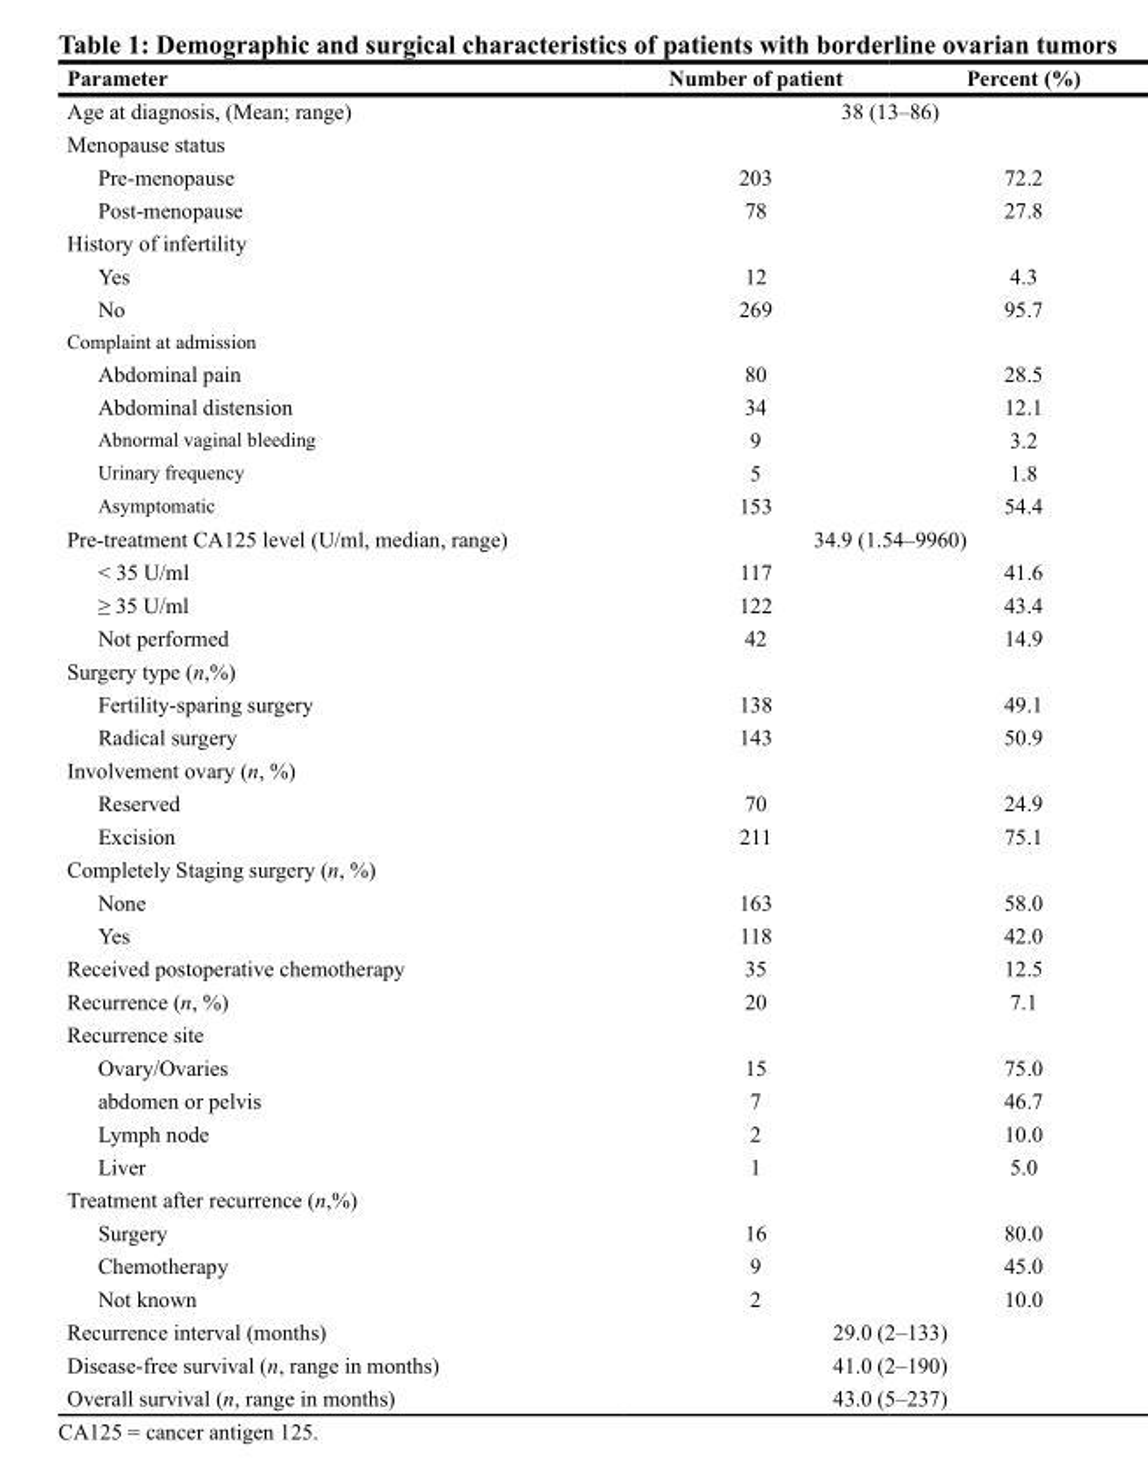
<table><thead><tr><td>Parameter</td><td>Number of patient</td><td>Percent (%)</td></tr></thead><tbody><tr><td>Age at diagnosis, (Mean; range)</td><td colspan="2">38 (13–86)</td></tr><tr><td colspan="3">Menopause status</td></tr><tr><td>Pre-menopause</td><td>203</td><td>72.2</td></tr><tr><td>Post-menopause</td><td>78</td><td>27.8</td></tr><tr><td colspan="3">History of infertility</td></tr><tr><td>Yes</td><td>12</td><td>4.3</td></tr><tr><td>No</td><td>269</td><td>95.7</td></tr><tr><td colspan="3">Complaint at admission</td></tr><tr><td>Abdominal pain</td><td>80</td><td>28.5</td></tr><tr><td>Abdominal distension</td><td>34</td><td>12.1</td></tr><tr><td>Abnormal vaginal bleeding</td><td>9</td><td>3.2</td></tr><tr><td>Urinary frequency</td><td>5</td><td>1.8</td></tr><tr><td>Asymptomatic</td><td>153</td><td>54.4</td></tr><tr><td>Pre-treatment CA125 level (U/ml, median, range)</td><td colspan="2">34.9 (1.54–9960)</td></tr><tr><td>&lt; 35 U/ml</td><td>117</td><td>41.6</td></tr><tr><td>≥ 35 U/ml</td><td>122</td><td>43.4</td></tr><tr><td>Not performed</td><td>42</td><td>14.9</td></tr><tr><td colspan="3">Surgery type (n,%)</td></tr><tr><td>Fertility-sparing surgery</td><td>138</td><td>49.1</td></tr><tr><td>Radical surgery</td><td>143</td><td>50.9</td></tr><tr><td colspan="3">Involvement ovary (n, %)</td></tr><tr><td>Reserved</td><td>70</td><td>24.9</td></tr><tr><td>Excision</td><td>211</td><td>75.1</td></tr><tr><td colspan="3">Completely Staging surgery (n, %)</td></tr><tr><td>None</td><td>163</td><td>58.0</td></tr><tr><td>Yes</td><td>118</td><td>42.0</td></tr><tr><td>Received postoperative chemotherapy</td><td>35</td><td>12.5</td></tr><tr><td>Recurrence (n, %)</td><td>20</td><td>7.1</td></tr><tr><td colspan="3">Recurrence site</td></tr><tr><td>Ovary/Ovaries</td><td>15</td><td>75.0</td></tr><tr><td>abdomen or pelvis</td><td>7</td><td>46.7</td></tr><tr><td>Lymph node</td><td>2</td><td>10.0</td></tr><tr><td>Liver</td><td>1</td><td>5.0</td></tr><tr><td colspan="3">Treatment after recurrence (n,%)</td></tr><tr><td>Surgery</td><td>16</td><td>80.0</td></tr><tr><td>Chemotherapy</td><td>9</td><td>45.0</td></tr><tr><td>Not known</td><td>2</td><td>10.0</td></tr><tr><td>Recurrence interval (months)</td><td colspan="2">29.0 (2–133)</td></tr><tr><td>Disease-free survival (n, range in months)</td><td colspan="2">41.0 (2–190)</td></tr><tr><td>Overall survival (n, range in months)</td><td colspan="2">43.0 (5–237)</td></tr></tbody></table>